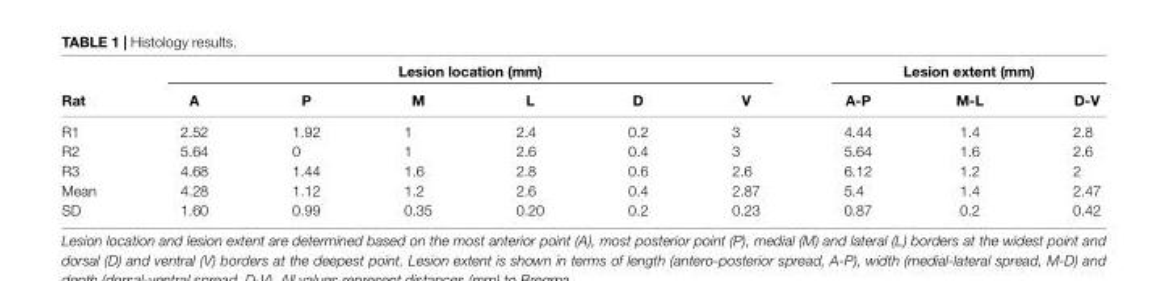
<table><thead><tr><td rowspan="2">Rat</td><td colspan="6">Lesion location (mm)</td><td colspan="3">Lesion extent (mm)</td></tr><tr><td>A</td><td>P</td><td>M</td><td>L</td><td>D</td><td>V</td><td>A-P</td><td>M-L</td><td>D-V</td></tr></thead><tbody><tr><td>R1</td><td>2.52</td><td>1.92</td><td>1</td><td>2.4</td><td>0.2</td><td>3</td><td>4.44</td><td>1.4</td><td>2.8</td></tr><tr><td>R2</td><td>5.64</td><td>0</td><td>1</td><td>2.6</td><td>0.4</td><td>3</td><td>5.64</td><td>1.6</td><td>2.6</td></tr><tr><td>R3</td><td>4.68</td><td>1.44</td><td>1.6</td><td>2.8</td><td>0.6</td><td>2.6</td><td>6.12</td><td>1.2</td><td>2</td></tr><tr><td>Mean</td><td>4.28</td><td>1.12</td><td>1.2</td><td>2.6</td><td>0.4</td><td>2.87</td><td>5.4</td><td>1.4</td><td>2.47</td></tr><tr><td>SD</td><td>1.60</td><td>0.99</td><td>0.35</td><td>0.20</td><td>0.2</td><td>0.23</td><td>0.87</td><td>0.2</td><td>0.42</td></tr></tbody></table>